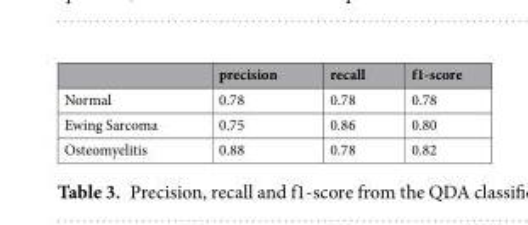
<table><thead><tr><td></td><td>precision</td><td>recall</td><td>f1-score</td></tr></thead><tbody><tr><td>Normal</td><td>0.78</td><td>0.78</td><td>0.78</td></tr><tr><td>Ewing Sarcoma</td><td>0.75</td><td>0.86</td><td>0.80</td></tr><tr><td>Osteomyelitis</td><td>0.88</td><td>0.78</td><td>0.82</td></tr></tbody></table>